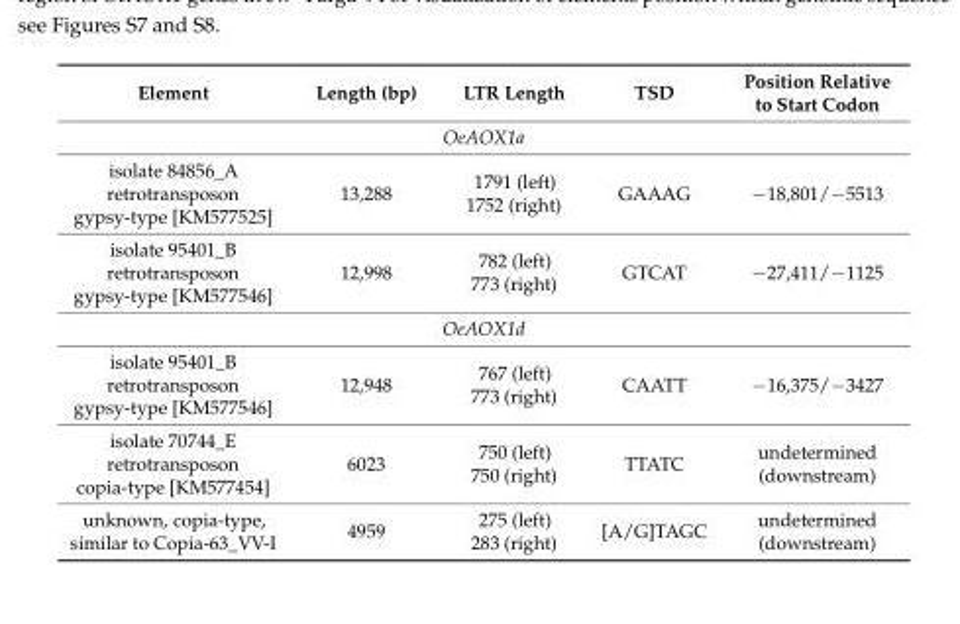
<table><thead><tr><td>Element</td><td>Length (bp)</td><td>LTR Length</td><td>TSD</td><td>Position Relative to Start Codon</td></tr></thead><tbody><tr><td colspan="5">OeAOX1a</td></tr><tr><td>isolate 84856_A retrotransposon gypsy-type [KM577525]</td><td>13,288</td><td>1791 (left) 1752 (right)</td><td>GAAAG</td><td>−18,801/−5513</td></tr><tr><td>isolate 95401_B retrotransposon gypsy-type [KM577546]</td><td>12,998</td><td>782 (left) 773 (right)</td><td>GTCAT</td><td>−27,411/−1125</td></tr><tr><td colspan="5">OeAOX1d</td></tr><tr><td>isolate 95401_B retrotransposon gypsy-type [KM577546]</td><td>12,948</td><td>767 (left) 773 (right)</td><td>CAATT</td><td>−16,375/−3427</td></tr><tr><td>isolate 70744_E retrotransposon copia-type [KM577454]</td><td>6023</td><td>750 (left) 750 (right)</td><td>TTATC</td><td>undetermined (downstream)</td></tr><tr><td>unknown, copia-type, similar to Copia-63_VV-I</td><td>4959</td><td>275 (left) 283 (right)</td><td>[A/G]TAGC</td><td>undetermined (downstream)</td></tr></tbody></table>